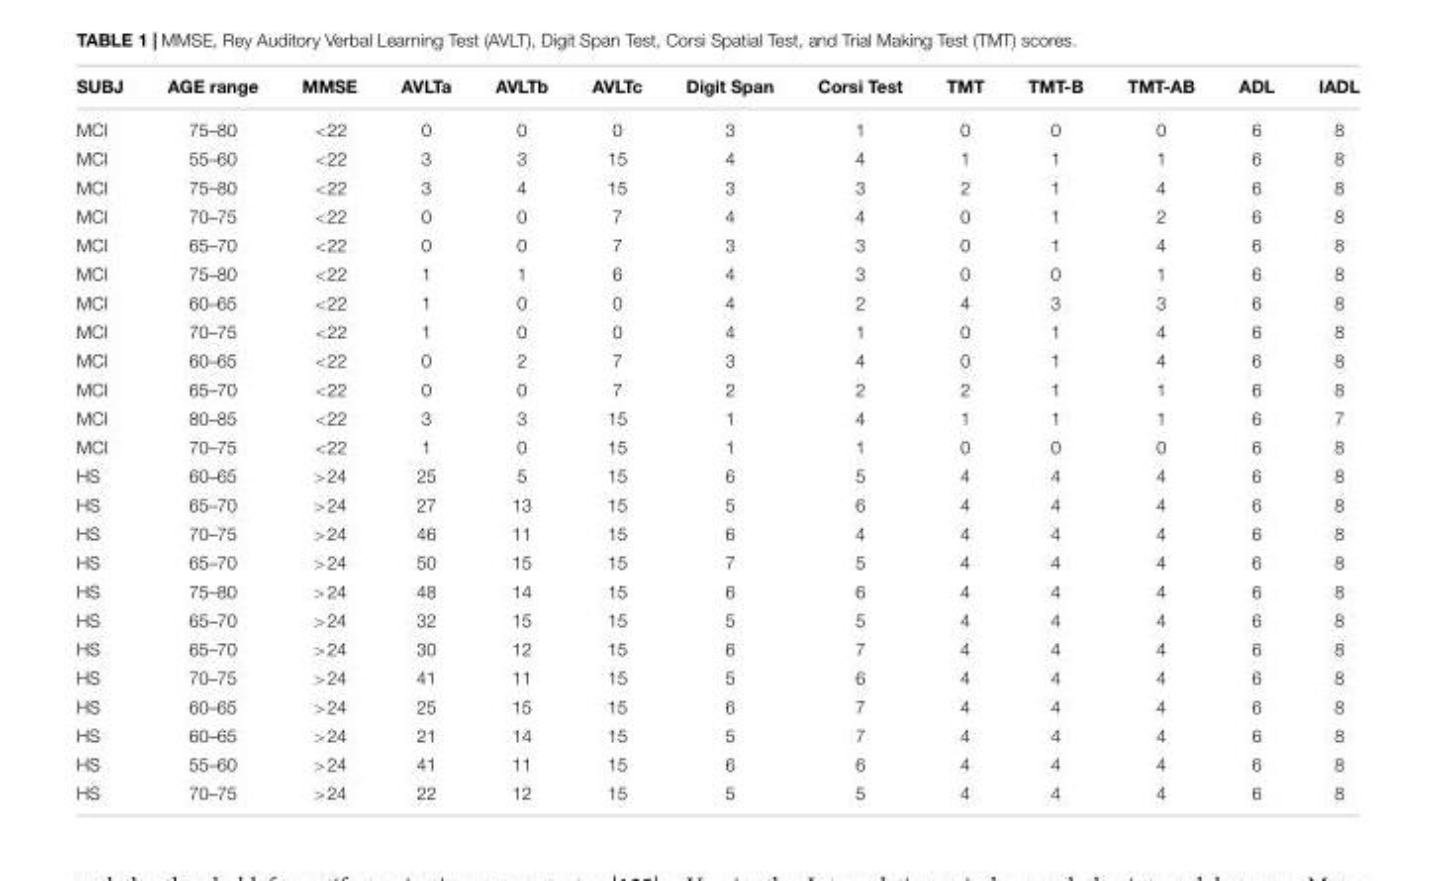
<table><thead><tr><td>SUBJ</td><td>AGE range</td><td>MMSE</td><td>AVLTa</td><td>AVLTb</td><td>AVLTc</td><td>Digit Span</td><td>Corsi Test</td><td>TMT</td><td>TMT-B</td><td>TMT-AB</td><td>ADL</td><td>IADL</td></tr></thead><tbody><tr><td>MCI</td><td>75–80</td><td>&lt;22</td><td>0</td><td>0</td><td>0</td><td>3</td><td>1</td><td>0</td><td>0</td><td>0</td><td>6</td><td>8</td></tr><tr><td>MCI</td><td>55–60</td><td>&lt;22</td><td>3</td><td>3</td><td>15</td><td>4</td><td>4</td><td>1</td><td>1</td><td>1</td><td>6</td><td>8</td></tr><tr><td>MCI</td><td>75–80</td><td>&lt;22</td><td>3</td><td>4</td><td>15</td><td>3</td><td>3</td><td>2</td><td>1</td><td>4</td><td>6</td><td>8</td></tr><tr><td>MCI</td><td>70–75</td><td>&lt;22</td><td>0</td><td>0</td><td>7</td><td>4</td><td>4</td><td>0</td><td>1</td><td>2</td><td>6</td><td>8</td></tr><tr><td>MCI</td><td>65–70</td><td>&lt;22</td><td>0</td><td>0</td><td>7</td><td>3</td><td>3</td><td>0</td><td>1</td><td>4</td><td>6</td><td>8</td></tr><tr><td>MCI</td><td>75–80</td><td>&lt;22</td><td>1</td><td>1</td><td>6</td><td>4</td><td>3</td><td>0</td><td>0</td><td>1</td><td>6</td><td>8</td></tr><tr><td>MCI</td><td>60–65</td><td>&lt;22</td><td>1</td><td>0</td><td>0</td><td>4</td><td>2</td><td>4</td><td>3</td><td>3</td><td>6</td><td>8</td></tr><tr><td>MCI</td><td>70–75</td><td>&lt;22</td><td>1</td><td>0</td><td>0</td><td>4</td><td>1</td><td>0</td><td>1</td><td>4</td><td>6</td><td>8</td></tr><tr><td>MCI</td><td>60–65</td><td>&lt;22</td><td>0</td><td>2</td><td>7</td><td>3</td><td>4</td><td>0</td><td>1</td><td>4</td><td>6</td><td>8</td></tr><tr><td>MCI</td><td>65–70</td><td>&lt;22</td><td>0</td><td>0</td><td>7</td><td>2</td><td>2</td><td>2</td><td>1</td><td>1</td><td>6</td><td>8</td></tr><tr><td>MCI</td><td>80–85</td><td>&lt;22</td><td>3</td><td>3</td><td>15</td><td>1</td><td>4</td><td>1</td><td>1</td><td>1</td><td>6</td><td>7</td></tr><tr><td>MCI</td><td>70–75</td><td>&lt;22</td><td>1</td><td>0</td><td>15</td><td>1</td><td>1</td><td>0</td><td>0</td><td>0</td><td>6</td><td>8</td></tr><tr><td>HS</td><td>60–65</td><td>&gt;24</td><td>25</td><td>5</td><td>15</td><td>6</td><td>5</td><td>4</td><td>4</td><td>4</td><td>6</td><td>8</td></tr><tr><td>HS</td><td>65–70</td><td>&gt;24</td><td>27</td><td>13</td><td>15</td><td>5</td><td>6</td><td>4</td><td>4</td><td>4</td><td>6</td><td>8</td></tr><tr><td>HS</td><td>70–75</td><td>&gt;24</td><td>46</td><td>11</td><td>15</td><td>6</td><td>4</td><td>4</td><td>4</td><td>4</td><td>6</td><td>8</td></tr><tr><td>HS</td><td>65–70</td><td>&gt;24</td><td>50</td><td>15</td><td>15</td><td>7</td><td>5</td><td>4</td><td>4</td><td>4</td><td>6</td><td>8</td></tr><tr><td>HS</td><td>75–80</td><td>&gt;24</td><td>48</td><td>14</td><td>15</td><td>6</td><td>6</td><td>4</td><td>4</td><td>4</td><td>6</td><td>8</td></tr><tr><td>HS</td><td>65–70</td><td>&gt;24</td><td>32</td><td>15</td><td>15</td><td>5</td><td>5</td><td>4</td><td>4</td><td>4</td><td>6</td><td>8</td></tr><tr><td>HS</td><td>65–70</td><td>&gt;24</td><td>30</td><td>12</td><td>15</td><td>6</td><td>7</td><td>4</td><td>4</td><td>4</td><td>6</td><td>8</td></tr><tr><td>HS</td><td>70–75</td><td>&gt;24</td><td>41</td><td>11</td><td>15</td><td>5</td><td>6</td><td>4</td><td>4</td><td>4</td><td>6</td><td>8</td></tr><tr><td>HS</td><td>60–65</td><td>&gt;24</td><td>25</td><td>15</td><td>15</td><td>6</td><td>7</td><td>4</td><td>4</td><td>4</td><td>6</td><td>8</td></tr><tr><td>HS</td><td>60–65</td><td>&gt;24</td><td>21</td><td>14</td><td>15</td><td>5</td><td>7</td><td>4</td><td>4</td><td>4</td><td>6</td><td>8</td></tr><tr><td>HS</td><td>55–60</td><td>&gt;24</td><td>41</td><td>11</td><td>15</td><td>6</td><td>6</td><td>4</td><td>4</td><td>4</td><td>6</td><td>8</td></tr><tr><td>HS</td><td>70–75</td><td>&gt;24</td><td>22</td><td>12</td><td>15</td><td>5</td><td>5</td><td>4</td><td>4</td><td>4</td><td>6</td><td>8</td></tr></tbody></table>